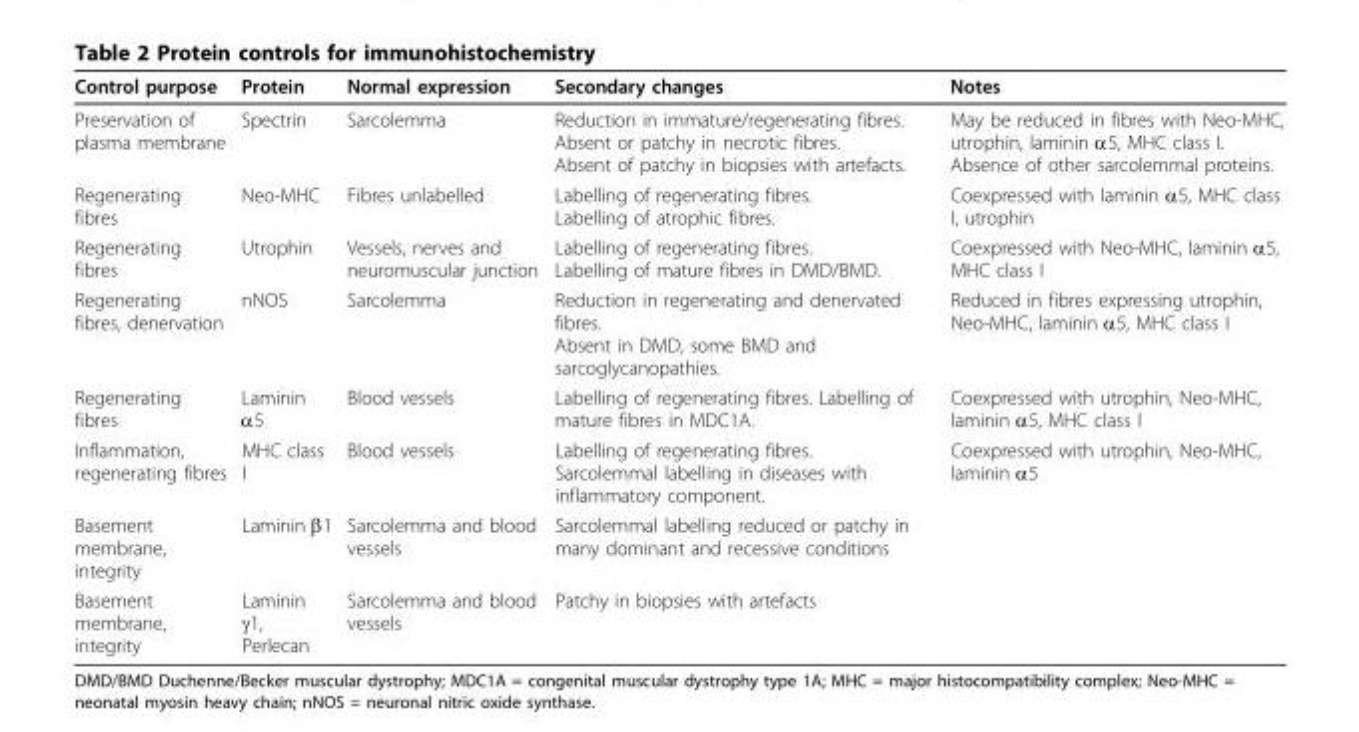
<table><thead><tr><td>Control purpose</td><td>Protein</td><td>Normal expression</td><td>Secondary changes</td><td>Notes</td></tr></thead><tbody><tr><td>Preservation of plasma membrane</td><td>Spectrin</td><td>Sarcolemma</td><td>Reduction in immature/regenerating fibres. Absent or patchy in necrotic fibres. Absent of patchy in biopsies with artefacts.</td><td>May be reduced in fibres with Neo-MHC, utrophin, laminin α5, MHC class I. Absence of other sarcolemmal proteins.</td></tr><tr><td>Regenerating fibres</td><td>Neo-MHC</td><td>Fibres unlabelled</td><td>Labelling of regenerating fibres. Labelling of atrophic fibres.</td><td>Coexpressed with laminin α5, MHC class I, utrophin</td></tr><tr><td>Regenerating fibres</td><td>Utrophin</td><td>Vessels, nerves and neuromuscular junction</td><td>Labelling of regenerating fibres. Labelling of mature fibres in DMD/BMD.</td><td>Coexpressed with Neo-MHC, laminin α5, MHC class I</td></tr><tr><td>Regenerating fibres, denervation</td><td>nNOS</td><td>Sarcolemma</td><td>Reduction in regenerating and denervated fibres. Absent in DMD, some BMD and sarcoglycanopathies.</td><td>Reduced in fibres expressing utrophin, Neo-MHC, laminin α5, MHC class I</td></tr><tr><td>Regenerating fibres</td><td>Laminin α5</td><td>Blood vessels</td><td>Labelling of regenerating fibres. Labelling of mature fibres in MDC1A.</td><td>Coexpressed with utrophin, Neo-MHC, laminin α5, MHC class I</td></tr><tr><td>Inflammation, regenerating fibres</td><td>MHC class I</td><td>Blood vessels</td><td>Labelling of regenerating fibres. Sarcolemmal labelling in diseases with inflammatory component.</td><td>Coexpressed with utrophin, Neo-MHC, laminin α5</td></tr><tr><td>Basement membrane, integrity</td><td>Laminin β1</td><td>Sarcolemma and blood vessels</td><td>Sarcolemmal labelling reduced or patchy in many dominant and recessive conditions</td><td></td></tr><tr><td>Basement membrane, integrity</td><td>Laminin γ1, Perlecan</td><td>Sarcolemma and blood vessels</td><td>Patchy in biopsies with artefacts</td><td></td></tr></tbody></table>